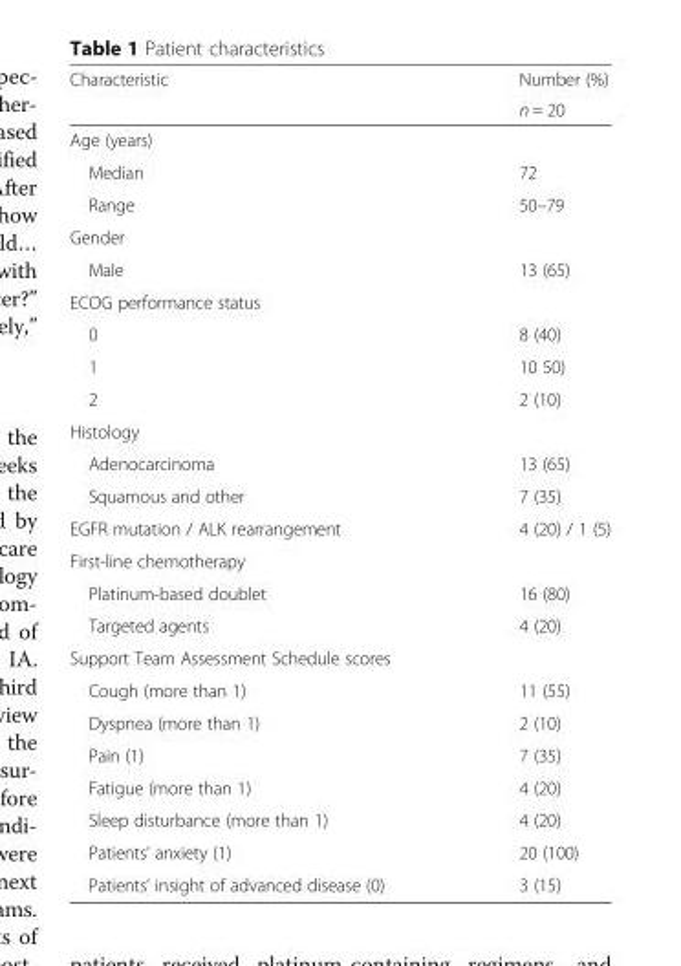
<table><thead><tr><td rowspan="2">Characteristic</td><td rowspan="2">Number (%) n = 20</td></tr><tr></tr></thead><tbody><tr><td colspan="2">Age (years)</td></tr><tr><td>Median</td><td>72</td></tr><tr><td>Range</td><td>50–79</td></tr><tr><td colspan="2">Gender</td></tr><tr><td>Male</td><td>13 (65)</td></tr><tr><td colspan="2">ECOG performance status</td></tr><tr><td>0</td><td>8 (40)</td></tr><tr><td>1</td><td>10 50)</td></tr><tr><td>2</td><td>2 (10)</td></tr><tr><td colspan="2">Histology</td></tr><tr><td>Adenocarcinoma</td><td>13 (65)</td></tr><tr><td>Squamous and other</td><td>7 (35)</td></tr><tr><td>EGFR mutation / ALK rearrangement</td><td>4 (20) / 1 (5)</td></tr><tr><td colspan="2">First-line chemotherapy</td></tr><tr><td>Platinum-based doublet</td><td>16 (80)</td></tr><tr><td>Targeted agents</td><td>4 (20)</td></tr><tr><td colspan="2">Support Team Assessment Schedule scores</td></tr><tr><td>Cough (more than 1)</td><td>11 (55)</td></tr><tr><td>Dyspnea (more than 1)</td><td>2 (10)</td></tr><tr><td>Pain (1)</td><td>7 (35)</td></tr><tr><td>Fatigue (more than 1)</td><td>4 (20)</td></tr><tr><td>Sleep disturbance (more than 1)</td><td>4 (20)</td></tr><tr><td>Patients’ anxiety (1)</td><td>20 (100)</td></tr><tr><td>Patients’ insight of advanced disease (0)</td><td>3 (15)</td></tr></tbody></table>